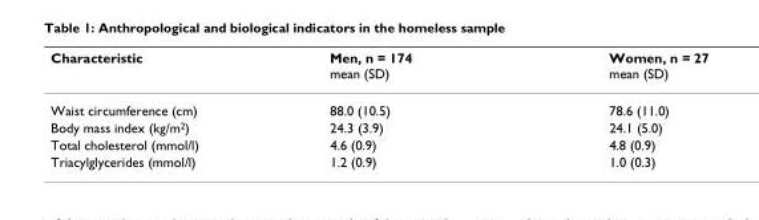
<table><thead><tr><td>Characteristic</td><td>Men, n = 174 mean (SD)</td><td>Women, n = 27 mean (SD)</td></tr></thead><tbody><tr><td>Waist circumference (cm)</td><td>88.0 (10.5)</td><td>78.6 (11.0)</td></tr><tr><td>Body mass index (kg/m<sup>2</sup>)</td><td>24.3 (3.9)</td><td>24.1 (5.0)</td></tr><tr><td>Total cholesterol (mmol/l)</td><td>4.6 (0.9)</td><td>4.8 (0.9)</td></tr><tr><td>Triacylglycerides (mmol/l)</td><td>1.2 (0.9)</td><td>1.0 (0.3)</td></tr></tbody></table>